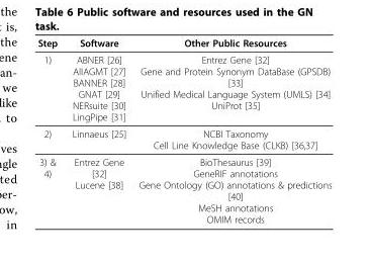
<table><thead><tr><td>Step</td><td>Software</td><td>Other Public Resources</td></tr></thead><tbody><tr><td>1)</td><td>ABNER [26] AIIAGMT [27] BANNER [28] GNAT [29] NERsuite [30] LingPipe [31]</td><td>Entrez Gene [32] Gene and Protein Synonym DataBase (GPSDB) [33] Unified Medical Language System (UMLS) [34] UniProt [35]</td></tr><tr><td>2)</td><td>Linnaeus [25]</td><td>NCBI Taxonomy Cell Line Knowledge Base (CLKB) [36,37]</td></tr><tr><td>3) &amp; 4)</td><td>Entrez Gene [32] Lucene [38]</td><td>BioThesaurus [39] GeneRIF annotations Gene Ontology (GO) annotations &amp; predictions [40] MeSH annotations OMIM records</td></tr></tbody></table>